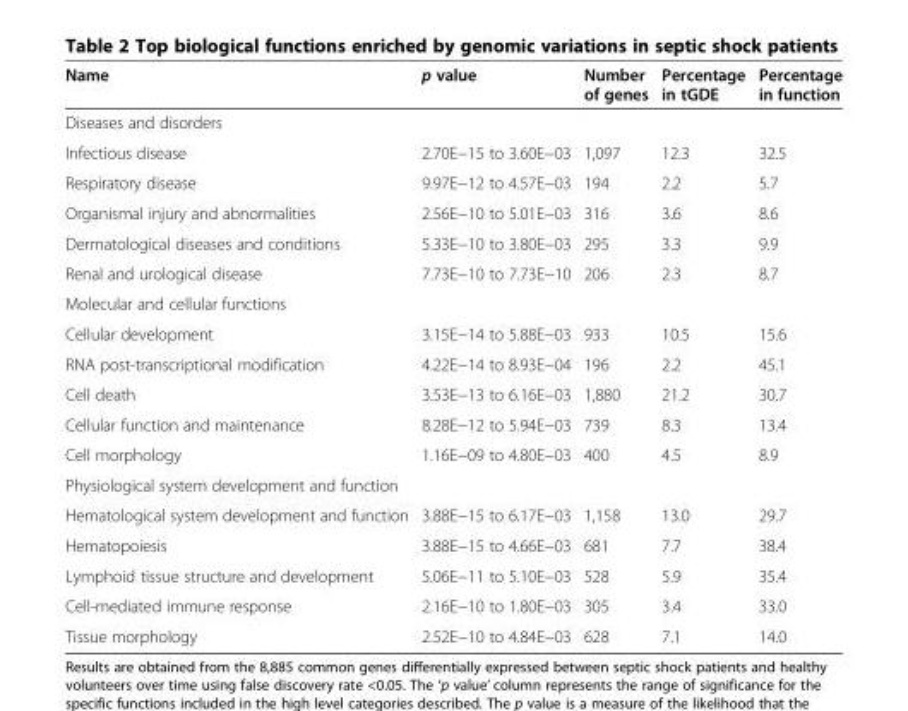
<table><thead><tr><td>Name</td><td>p value</td><td>Number of genes</td><td>Percentage in tGDE</td><td>Percentage in function</td></tr></thead><tbody><tr><td colspan="5">Diseases and disorders</td></tr><tr><td>Infectious disease</td><td>2.70E−15 to 3.60E−03</td><td>1,097</td><td>12.3</td><td>32.5</td></tr><tr><td>Respiratory disease</td><td>9.97E−12 to 4.57E−03</td><td>194</td><td>2.2</td><td>5.7</td></tr><tr><td>Organismal injury and abnormalities</td><td>2.56E−10 to 5.01E−03</td><td>316</td><td>3.6</td><td>8.6</td></tr><tr><td>Dermatological diseases and conditions</td><td>5.33E−10 to 3.80E−03</td><td>295</td><td>3.3</td><td>9.9</td></tr><tr><td>Renal and urological disease</td><td>7.73E−10 to 7.73E−10</td><td>206</td><td>2.3</td><td>8.7</td></tr><tr><td colspan="5">Molecular and cellular functions</td></tr><tr><td>Cellular development</td><td>3.15E−14 to 5.88E−03</td><td>933</td><td>10.5</td><td>15.6</td></tr><tr><td>RNA post-transcriptional modification</td><td>4.22E−14 to 8.93E−04</td><td>196</td><td>2.2</td><td>45.1</td></tr><tr><td>Cell death</td><td>3.53E−13 to 6.16E−03</td><td>1,880</td><td>21.2</td><td>30.7</td></tr><tr><td>Cellular function and maintenance</td><td>8.28E−12 to 5.94E−03</td><td>739</td><td>8.3</td><td>13.4</td></tr><tr><td>Cell morphology</td><td>1.16E−09 to 4.80E−03</td><td>400</td><td>4.5</td><td>8.9</td></tr><tr><td colspan="5">Physiological system development and function</td></tr><tr><td>Hematological system development and function</td><td>3.88E−15 to 6.17E−03</td><td>1,158</td><td>13.0</td><td>29.7</td></tr><tr><td>Hematopoiesis</td><td>3.88E−15 to 4.66E−03</td><td>681</td><td>7.7</td><td>38.4</td></tr><tr><td>Lymphoid tissue structure and development</td><td>5.06E−11 to 5.10E−03</td><td>528</td><td>5.9</td><td>35.4</td></tr><tr><td>Cell-mediated immune response</td><td>2.16E−10 to 1.80E−03</td><td>305</td><td>3.4</td><td>33.0</td></tr><tr><td>Tissue morphology</td><td>2.52E−10 to 4.84E−03</td><td>628</td><td>7.1</td><td>14.0</td></tr></tbody></table>